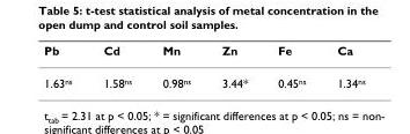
<table><thead><tr><td>Pb</td><td>Cd</td><td>Mn</td><td>Zn</td><td>Fe</td><td>Ca</td></tr></thead><tbody><tr><td>1.63<sup>ns</sup></td><td>1.58<sup>ns</sup></td><td>0.98<sup>ns</sup></td><td>3.44*</td><td>0.45<sup>ns</sup></td><td>1.34<sup>ns</sup></td></tr></tbody></table>